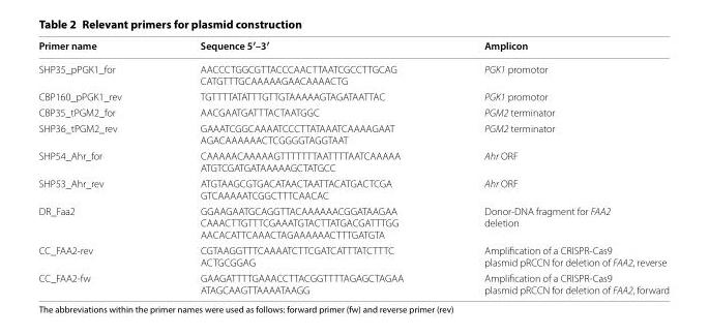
<table><thead><tr><td>Primer name</td><td>Sequence 5′–3′</td><td>Amplicon</td></tr></thead><tbody><tr><td>SHP35_pPGK1_for</td><td>AAC CCT GGC GTT ACC CAA CTT AAT CGC CTT GCAG CAT GTT TGC AAA AAG AAC AAA ACT G</td><td>PGK1 promotor</td></tr><tr><td>CBP160_pPGK1_rev</td><td>TGT TTT ATA TTT GTT GTA AAA AGT AGA TAA TTAC</td><td>PGK1 promotor</td></tr><tr><td>CBP35_tPGM2_for</td><td>AAC GAA TGA TTT ACT AAT GGC</td><td>PGM2 terminator</td></tr><tr><td>SHP36_tPGM2_rev</td><td>GAA ATC GGC AAA ATC CCT TAT AAA TCA AAA GAAT AGA CAA AAA ACT CGG GGT AGG TAA T</td><td>PGM2 terminator</td></tr><tr><td>SHP54_Ahr_for</td><td>CAA AAA CAA AAA GTT TTT TTA ATT TTA ATC AAAAA ATG TCG ATG ATA AAA AGC TAT GCC</td><td>Ahr ORF</td></tr><tr><td>SHP53_Ahr_rev</td><td>ATG TAA GCG TGA CAT AAC TAA TTA CAT GAC TCGA GTC AAA AAT CGG CTT TCA ACAC</td><td>Ahr ORF</td></tr><tr><td>DR_Faa2</td><td>GGA AGA ATG CAG GTT ACA AAA AAC GGA TAA GAA CAA ACT TGT TTC GAA ATG TAC TTA TGA CGA TTTGG AAC ACA TTC AAA CTA GAA AAA ACT TTG ATG TA</td><td>Donor-DNA fragment for FAA2 deletion</td></tr><tr><td>CC_FAA2-rev</td><td>CGT AAG GTT TCA AAA TCT TCG ATC ATT TAT CTTTC ACT GCG GAG</td><td>Amplification of a CRISPR-Cas9 plasmid pRCCN for deletion of FAA2, reverse</td></tr><tr><td>CC_FAA2-fw</td><td>GAA GAT TTT GAA ACC TTA CGG TTT TAG AGC TAGAA ATA GCA AGT TAA AAT AAG G</td><td>Amplification of a CRISPR-Cas9 plasmid pRCCN for deletion of FAA2, forward</td></tr></tbody></table>